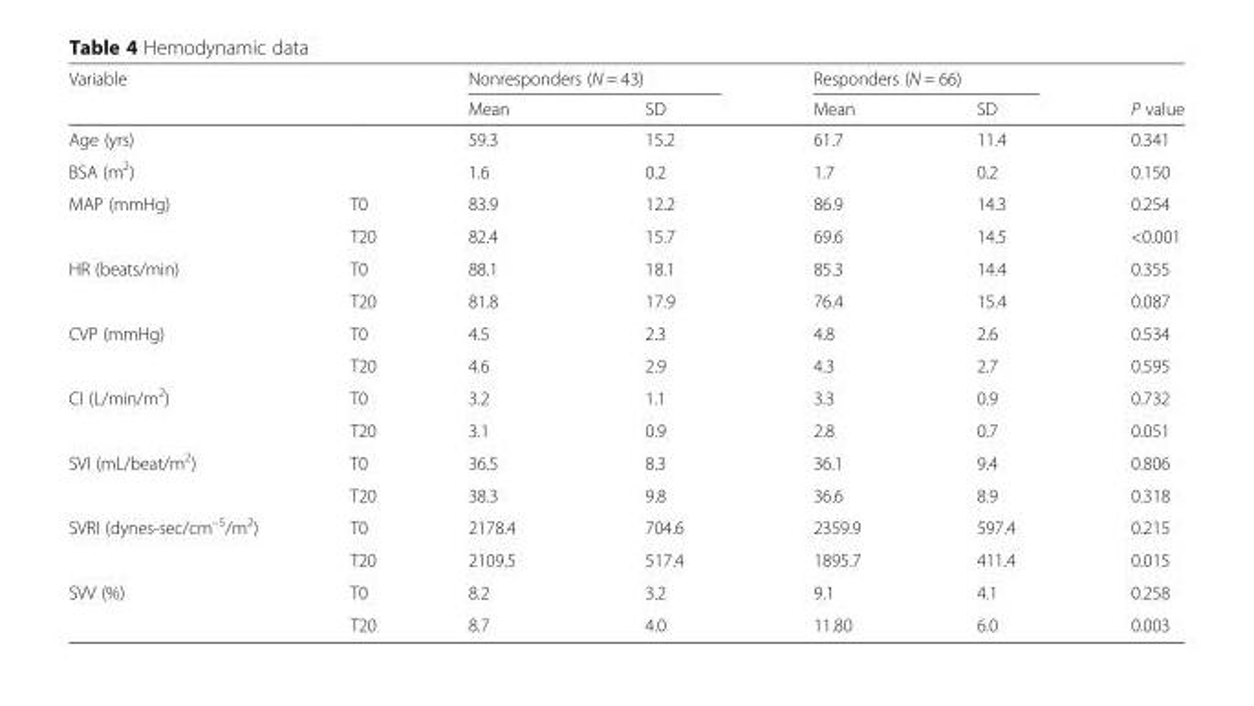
<table><thead><tr><td rowspan="2">Variable</td><td rowspan="2"></td><td colspan="2">Nonresponders (N = 43)</td><td colspan="2">Responders (N = 66)</td><td rowspan="2">P value</td></tr><tr><td>Mean</td><td>SD</td><td>Mean</td><td>SD</td></tr></thead><tbody><tr><td>Age (yrs)</td><td></td><td>59.3</td><td>15.2</td><td>61.7</td><td>11.4</td><td>0.341</td></tr><tr><td>BSA (m<sup>2</sup>)</td><td></td><td>1.6</td><td>0.2</td><td>1.7</td><td>0.2</td><td>0.150</td></tr><tr><td rowspan="2">MAP (mmHg)</td><td>T0</td><td>83.9</td><td>12.2</td><td>86.9</td><td>14.3</td><td>0.254</td></tr><tr><td>T20</td><td>82.4</td><td>15.7</td><td>69.6</td><td>14.5</td><td>&lt;0.001</td></tr><tr><td rowspan="2">HR (beats/min)</td><td>T0</td><td>88.1</td><td>18.1</td><td>85.3</td><td>14.4</td><td>0.355</td></tr><tr><td>T20</td><td>81.8</td><td>17.9</td><td>76.4</td><td>15.4</td><td>0.087</td></tr><tr><td rowspan="2">CVP (mmHg)</td><td>T0</td><td>4.5</td><td>2.3</td><td>4.8</td><td>2.6</td><td>0.534</td></tr><tr><td>T20</td><td>4.6</td><td>2.9</td><td>4.3</td><td>2.7</td><td>0.595</td></tr><tr><td rowspan="2">CI (L/min/m<sup>2</sup>)</td><td>T0</td><td>3.2</td><td>1.1</td><td>3.3</td><td>0.9</td><td>0.732</td></tr><tr><td>T20</td><td>3.1</td><td>0.9</td><td>2.8</td><td>0.7</td><td>0.051</td></tr><tr><td rowspan="2">SVI (mL/beat/m<sup>2</sup>)</td><td>T0</td><td>36.5</td><td>8.3</td><td>36.1</td><td>9.4</td><td>0.806</td></tr><tr><td>T20</td><td>38.3</td><td>9.8</td><td>36.6</td><td>8.9</td><td>0.318</td></tr><tr><td rowspan="2">SVRI (dynes-sec/cm<sup>–5</sup>/m<sup>2</sup>)</td><td>T0</td><td>2178.4</td><td>704.6</td><td>2359.9</td><td>597.4</td><td>0.215</td></tr><tr><td>T20</td><td>2109.5</td><td>517.4</td><td>1895.7</td><td>411.4</td><td>0.015</td></tr><tr><td rowspan="2">SVV (%)</td><td>T0</td><td>8.2</td><td>3.2</td><td>9.1</td><td>4.1</td><td>0.258</td></tr><tr><td>T20</td><td>8.7</td><td>4.0</td><td>11.80</td><td>6.0</td><td>0.003</td></tr></tbody></table>